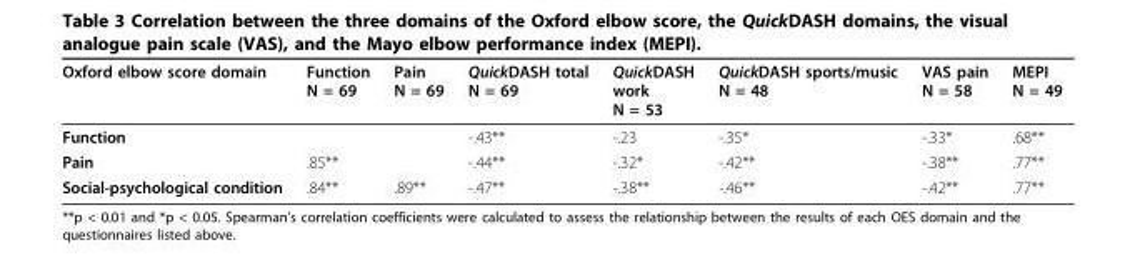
<table><thead><tr><td>Oxford elbow score domain</td><td>Function N = 69</td><td>Pain N = 69</td><td>QuickDASH total N = 69</td><td>QuickDASH work N = 53</td><td>QuickDASH sports/music N = 48</td><td>VAS pain N = 58</td><td>MEPI N = 49</td></tr></thead><tbody><tr><td>Function</td><td></td><td></td><td>-.43**</td><td>-.23</td><td>-.35*</td><td>-.33*</td><td>.68**</td></tr><tr><td>Pain</td><td>.85**</td><td></td><td>-.44**</td><td>-.32*</td><td>-.42**</td><td>-.38**</td><td>.77**</td></tr><tr><td>Social-psychological condition</td><td>.84**</td><td>.89**</td><td>-.47**</td><td>-.38**</td><td>-.46**</td><td>-.42**</td><td>.77**</td></tr></tbody></table>